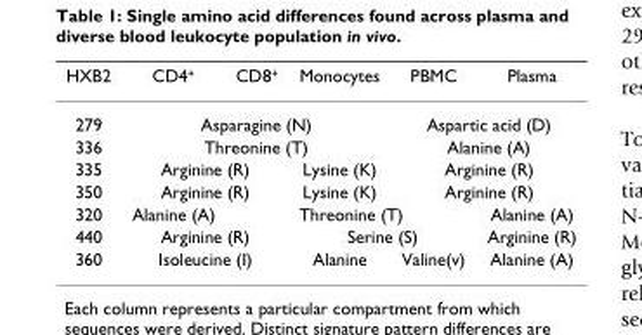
<table><thead><tr><td>HXB2</td><td>CD4<sup>+</sup></td><td>CD8<sup>+</sup></td><td>Monocytes</td><td>PBMC</td><td>Plasma</td></tr></thead><tbody><tr><td>279</td><td colspan="3">Asparagine (N)</td><td colspan="2">Aspartic acid (D)</td></tr><tr><td>336</td><td colspan="3">Threonine (T)</td><td colspan="2">Alanine (A)</td></tr><tr><td>335</td><td colspan="2">Arginine (R)</td><td>Lysine (K)</td><td colspan="2">Arginine (R)</td></tr><tr><td>350</td><td colspan="2">Arginine (R)</td><td>Lysine (K)</td><td colspan="2">Arginine (R)</td></tr><tr><td>320</td><td>Alanine (A)</td><td colspan="3">Threonine (T)</td><td>Alanine (A)</td></tr><tr><td>440</td><td colspan="2">Arginine (R)</td><td colspan="2">Serine (S)</td><td>Arginine (R)</td></tr><tr><td>360</td><td colspan="2">Isoleucine (I)</td><td>Alanine</td><td>Valine(v)</td><td>Alanine (A)</td></tr></tbody></table>